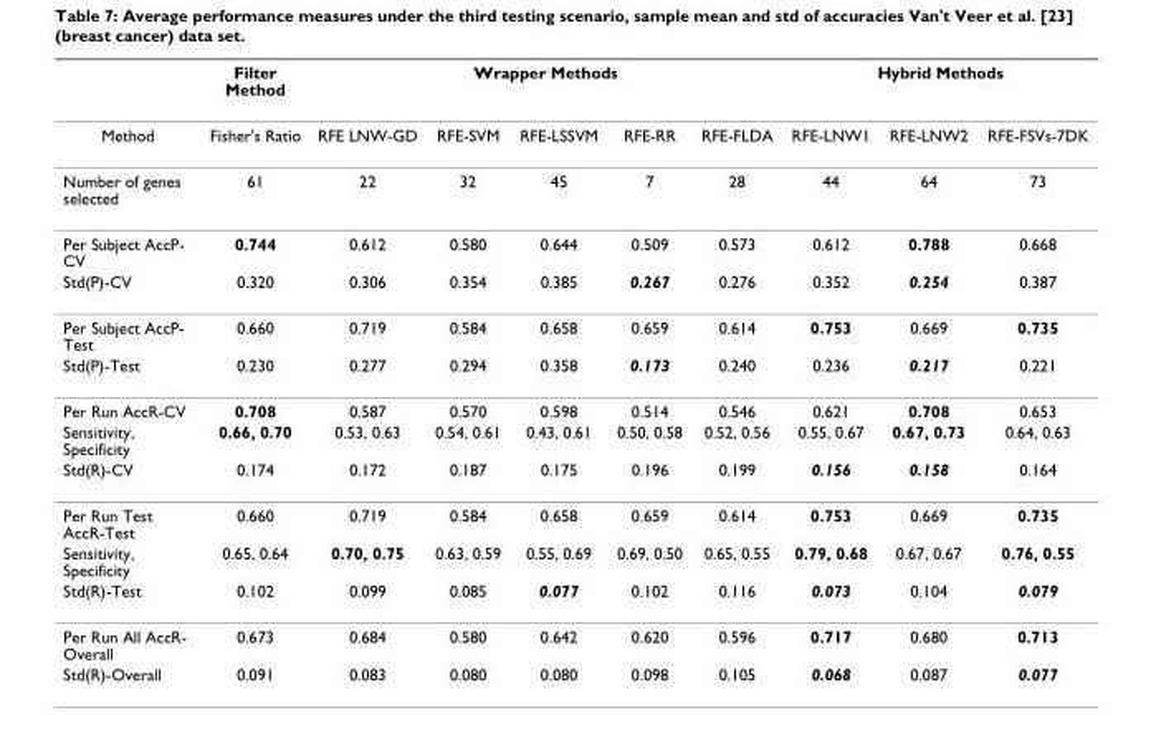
<table><thead><tr><td rowspan="2">Method</td><td rowspan="2">Filter Method Fisher&#x27;s Ratio</td><td colspan="5">Wrapper Methods</td><td colspan="3">Hybrid Methods</td></tr><tr><td>RFE LNW-GD</td><td>RFE-SVM</td><td>RFE-LSSVM</td><td>RFE-RR</td><td>RFE-FLDA</td><td>RFE-LNW1</td><td>RFE-LNW2</td><td>RFE-FSVs-7DK</td></tr></thead><tbody><tr><td>Number of genes selected</td><td>61</td><td>22</td><td>32</td><td>45</td><td>7</td><td>28</td><td>44</td><td>64</td><td>73</td></tr><tr><td>Per Subject AccP- CV</td><td>0.744</td><td>0.612</td><td>0.580</td><td>0.644</td><td>0.509</td><td>0.573</td><td>0.612</td><td>0.788</td><td>0.668</td></tr><tr><td>Std(P)-CV</td><td>0.320</td><td>0.306</td><td>0.354</td><td>0.385</td><td>0.267</td><td>0.276</td><td>0.352</td><td>0.254</td><td>0.387</td></tr><tr><td>Per Subject AccP- Test</td><td>0.660</td><td>0.719</td><td>0.584</td><td>0.658</td><td>0.659</td><td>0.614</td><td>0.753</td><td>0.669</td><td>0.735</td></tr><tr><td>Std(P)-Test</td><td>0.230</td><td>0.277</td><td>0.294</td><td>0.358</td><td>0.173</td><td>0.240</td><td>0.236</td><td>0.217</td><td>0.221</td></tr><tr><td>Per Run AccR-CV</td><td>0.708</td><td>0.587</td><td>0.570</td><td>0.598</td><td>0.514</td><td>0.546</td><td>0.621</td><td>0.708</td><td>0.653</td></tr><tr><td>Sensitivity, Specificity</td><td>0.66, 0.70</td><td>0.53, 0.63</td><td>0.54, 0.61</td><td>0.43, 0.61</td><td>0.50, 0.58</td><td>0.52, 0.56</td><td>0.55, 0.67</td><td>0.67, 0.73</td><td>0.64, 0.63</td></tr><tr><td>Std(R)-CV</td><td>0.174</td><td>0.172</td><td>0.187</td><td>0.175</td><td>0.196</td><td>0.199</td><td>0.156</td><td>0.158</td><td>0.164</td></tr><tr><td>Per Run Test AccR-Test</td><td>0.660</td><td>0.719</td><td>0.584</td><td>0.658</td><td>0.659</td><td>0.614</td><td>0.753</td><td>0.669</td><td>0.735</td></tr><tr><td>Sensitivity, Specificity</td><td>0.65, 0.64</td><td>0.70, 0.75</td><td>0.63, 0.59</td><td>0.55, 0.69</td><td>0.69, 0.50</td><td>0.65, 0.55</td><td>0.79, 0.68</td><td>0.67, 0.67</td><td>0.76, 0.55</td></tr><tr><td>Std(R)-Test</td><td>0.102</td><td>0.099</td><td>0.085</td><td>0.077</td><td>0.102</td><td>0.116</td><td>0.073</td><td>0.104</td><td>0.079</td></tr><tr><td>Per Run All AccR- Overall</td><td>0.673</td><td>0.684</td><td>0.580</td><td>0.642</td><td>0.620</td><td>0.596</td><td>0.717</td><td>0.680</td><td>0.713</td></tr><tr><td>Std(R)-Overall</td><td>0.091</td><td>0.083</td><td>0.080</td><td>0.080</td><td>0.098</td><td>0.105</td><td>0.068</td><td>0.087</td><td>0.077</td></tr></tbody></table>